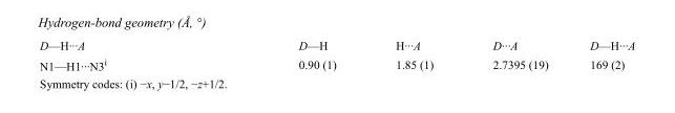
<table><tbody><tr><td>D—H···A</td><td>D—H</td><td>H···A</td><td>D···A</td><td>D—H···A</td></tr><tr><td>N1—H1···N3<sup>i</sup></td><td>0.90 (1)</td><td>1.85 (1)</td><td>2.7395 (19)</td><td>169 (2)</td></tr></tbody></table>